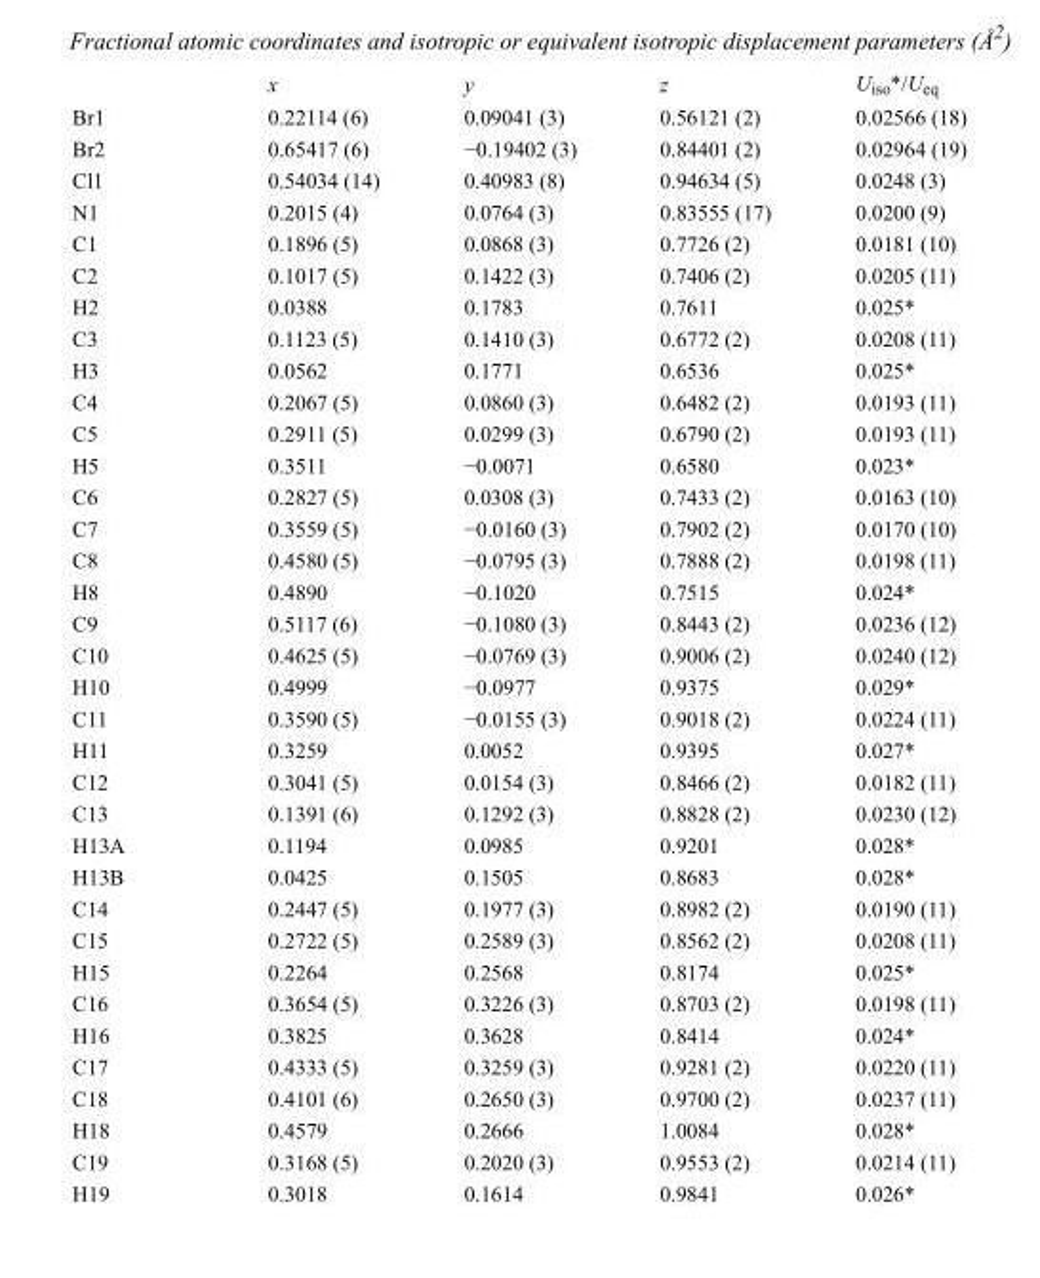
<table><thead><tr><td></td><td>x</td><td>y</td><td>z</td><td>U<sub>iso</sub>*/U<sub>eq</sub></td></tr></thead><tbody><tr><td>Br1</td><td>0.22114 (6)</td><td>0.09041 (3)</td><td>0.56121 (2)</td><td>0.02566 (18)</td></tr><tr><td>Br2</td><td>0.65417 (6)</td><td>−0.19402 (3)</td><td>0.84401 (2)</td><td>0.02964 (19)</td></tr><tr><td>Cl1</td><td>0.54034 (14)</td><td>0.40983 (8)</td><td>0.94634 (5)</td><td>0.0248 (3)</td></tr><tr><td>N1</td><td>0.2015 (4)</td><td>0.0764 (3)</td><td>0.83555 (17)</td><td>0.0200 (9)</td></tr><tr><td>C1</td><td>0.1896 (5)</td><td>0.0868 (3)</td><td>0.7726 (2)</td><td>0.0181 (10)</td></tr><tr><td>C2</td><td>0.1017 (5)</td><td>0.1422 (3)</td><td>0.7406 (2)</td><td>0.0205 (11)</td></tr><tr><td>H2</td><td>0.0388</td><td>0.1783</td><td>0.7611</td><td>0.025*</td></tr><tr><td>C3</td><td>0.1123 (5)</td><td>0.1410 (3)</td><td>0.6772 (2)</td><td>0.0208 (11)</td></tr><tr><td>H3</td><td>0.0562</td><td>0.1771</td><td>0.6536</td><td>0.025*</td></tr><tr><td>C4</td><td>0.2067 (5)</td><td>0.0860 (3)</td><td>0.6482 (2)</td><td>0.0193 (11)</td></tr><tr><td>C5</td><td>0.2911 (5)</td><td>0.0299 (3)</td><td>0.6790 (2)</td><td>0.0193 (11)</td></tr><tr><td>H5</td><td>0.3511</td><td>−0.0071</td><td>0.6580</td><td>0.023*</td></tr><tr><td>C6</td><td>0.2827 (5)</td><td>0.0308 (3)</td><td>0.7433 (2)</td><td>0.0163 (10)</td></tr><tr><td>C7</td><td>0.3559 (5)</td><td>−0.0160 (3)</td><td>0.7902 (2)</td><td>0.0170 (10)</td></tr><tr><td>C8</td><td>0.4580 (5)</td><td>−0.0795 (3)</td><td>0.7888 (2)</td><td>0.0198 (11)</td></tr><tr><td>H8</td><td>0.4890</td><td>−0.1020</td><td>0.7515</td><td>0.024*</td></tr><tr><td>C9</td><td>0.5117 (6)</td><td>−0.1080 (3)</td><td>0.8443 (2)</td><td>0.0236 (12)</td></tr><tr><td>C10</td><td>0.4625 (5)</td><td>−0.0769 (3)</td><td>0.9006 (2)</td><td>0.0240 (12)</td></tr><tr><td>H10</td><td>0.4999</td><td>−0.0977</td><td>0.9375</td><td>0.029*</td></tr><tr><td>C11</td><td>0.3590 (5)</td><td>−0.0155 (3)</td><td>0.9018 (2)</td><td>0.0224 (11)</td></tr><tr><td>H11</td><td>0.3259</td><td>0.0052</td><td>0.9395</td><td>0.027*</td></tr><tr><td>C12</td><td>0.3041 (5)</td><td>0.0154 (3)</td><td>0.8466 (2)</td><td>0.0182 (11)</td></tr><tr><td>C13</td><td>0.1391 (6)</td><td>0.1292 (3)</td><td>0.8828 (2)</td><td>0.0230 (12)</td></tr><tr><td>H13A</td><td>0.1194</td><td>0.0985</td><td>0.9201</td><td>0.028*</td></tr><tr><td>H13B</td><td>0.0425</td><td>0.1505</td><td>0.8683</td><td>0.028*</td></tr><tr><td>C14</td><td>0.2447 (5)</td><td>0.1977 (3)</td><td>0.8982 (2)</td><td>0.0190 (11)</td></tr><tr><td>C15</td><td>0.2722 (5)</td><td>0.2589 (3)</td><td>0.8562 (2)</td><td>0.0208 (11)</td></tr><tr><td>H15</td><td>0.2264</td><td>0.2568</td><td>0.8174</td><td>0.025*</td></tr><tr><td>C16</td><td>0.3654 (5)</td><td>0.3226 (3)</td><td>0.8703 (2)</td><td>0.0198 (11)</td></tr><tr><td>H16</td><td>0.3825</td><td>0.3628</td><td>0.8414</td><td>0.024*</td></tr><tr><td>C17</td><td>0.4333 (5)</td><td>0.3259 (3)</td><td>0.9281 (2)</td><td>0.0220 (11)</td></tr><tr><td>C18</td><td>0.4101 (6)</td><td>0.2650 (3)</td><td>0.9700 (2)</td><td>0.0237 (11)</td></tr><tr><td>H18</td><td>0.4579</td><td>0.2666</td><td>1.0084</td><td>0.028*</td></tr><tr><td>C19</td><td>0.3168 (5)</td><td>0.2020 (3)</td><td>0.9553 (2)</td><td>0.0214 (11)</td></tr><tr><td>H19</td><td>0.3018</td><td>0.1614</td><td>0.9841</td><td>0.026*</td></tr></tbody></table>